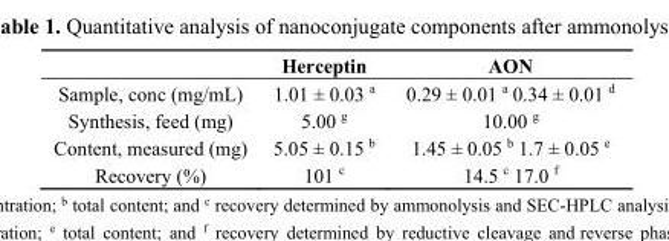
<table><thead><tr><td></td><td>Herceptin</td><td>AON</td></tr></thead><tbody><tr><td>Sample, conc (mg/mL)</td><td>1.01 ± 0.03 <sup>a</sup></td><td>0.29 ± 0.01 <sup>a</sup> 0.34 ± 0.01 <sup>d</sup></td></tr><tr><td>Synthesis, feed (mg)</td><td>5.00 <sup>g</sup></td><td>10.00 <sup>g</sup></td></tr><tr><td>Content, measured (mg)</td><td>5.05 ± 0.15 <sup>b</sup></td><td>1.45 ± 0.05 <sup>b</sup> 1.7 ± 0.05 <sup>e</sup></td></tr><tr><td>Recovery (%)</td><td>101 <sup>c</sup></td><td>14.5 <sup>c</sup> 17.0 <sup>f</sup></td></tr></tbody></table>